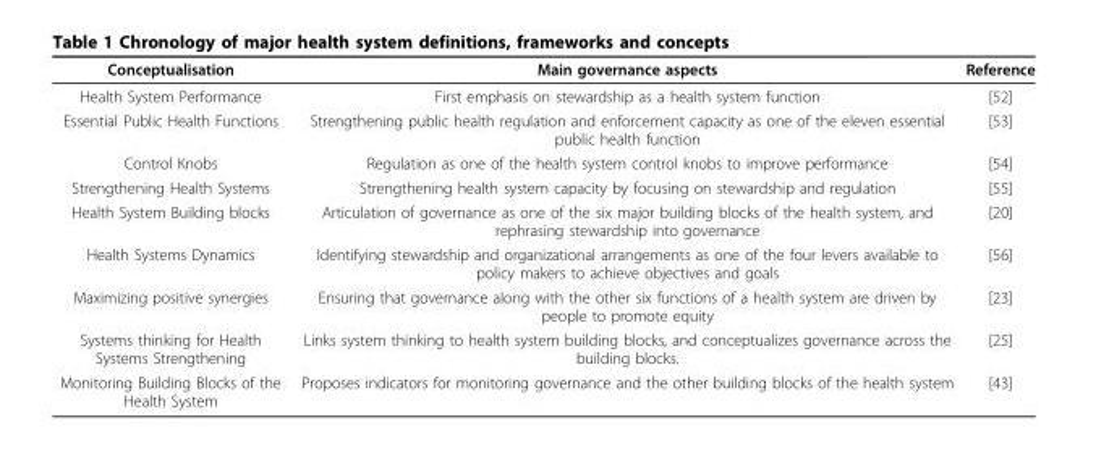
<table><thead><tr><td>Conceptualisation</td><td>Main governance aspects</td><td>Reference</td></tr></thead><tbody><tr><td>Health System Performance</td><td>First emphasis on stewardship as a health system function</td><td>[52]</td></tr><tr><td>Essential Public Health Functions</td><td>Strengthening public health regulation and enforcement capacity as one of the eleven essential public health function</td><td>[53]</td></tr><tr><td>Control Knobs</td><td>Regulation as one of the health system control knobs to improve performance</td><td>[54]</td></tr><tr><td>Strengthening Health Systems</td><td>Strengthening health system capacity by focusing on stewardship and regulation</td><td>[55]</td></tr><tr><td>Health System Building blocks</td><td>Articulation of governance as one of the six major building blocks of the health system, and rephrasing stewardship into governance</td><td>[20]</td></tr><tr><td>Health Systems Dynamics</td><td>Identifying stewardship and organizational arrangements as one of the four levers available to policy makers to achieve objectives and goals</td><td>[56]</td></tr><tr><td>Maximizing positive synergies</td><td>Ensuring that governance along with the other six functions of a health system are driven by people to promote equity</td><td>[23]</td></tr><tr><td>Systems thinking for Health Systems Strengthening</td><td>Links system thinking to health system building blocks, and conceptualizes governance across the building blocks.</td><td>[25]</td></tr><tr><td>Monitoring Building Blocks of the Health System</td><td>Proposes indicators for monitoring governance and the other building blocks of the health system</td><td>[43]</td></tr></tbody></table>